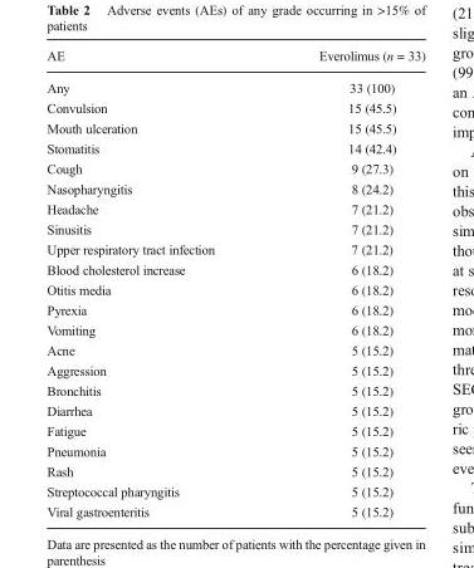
<table><thead><tr><td>AE</td><td>Everolimus (n = 33)</td></tr></thead><tbody><tr><td>Any</td><td>33 (100)</td></tr><tr><td>Convulsion</td><td>15 (45.5)</td></tr><tr><td>Mouth ulceration</td><td>15 (45.5)</td></tr><tr><td>Stomatitis</td><td>14 (42.4)</td></tr><tr><td>Cough</td><td>9 (27.3)</td></tr><tr><td>Nasopharyngitis</td><td>8 (24.2)</td></tr><tr><td>Headache</td><td>7 (21.2)</td></tr><tr><td>Sinusitis</td><td>7 (21.2)</td></tr><tr><td>Upper respiratory tract infection</td><td>7 (21.2)</td></tr><tr><td>Blood cholesterol increase</td><td>6 (18.2)</td></tr><tr><td>Otitis media</td><td>6 (18.2)</td></tr><tr><td>Pyrexia</td><td>6 (18.2)</td></tr><tr><td>Vomiting</td><td>6 (18.2)</td></tr><tr><td>Acne</td><td>5 (15.2)</td></tr><tr><td>Aggression</td><td>5 (15.2)</td></tr><tr><td>Bronchitis</td><td>5 (15.2)</td></tr><tr><td>Diarrhea</td><td>5 (15.2)</td></tr><tr><td>Fatigue</td><td>5 (15.2)</td></tr><tr><td>Pneumonia</td><td>5 (15.2)</td></tr><tr><td>Rash</td><td>5 (15.2)</td></tr><tr><td>Streptococcal pharyngitis</td><td>5 (15.2)</td></tr><tr><td>Viral gastroenteritis</td><td>5 (15.2)</td></tr></tbody></table>